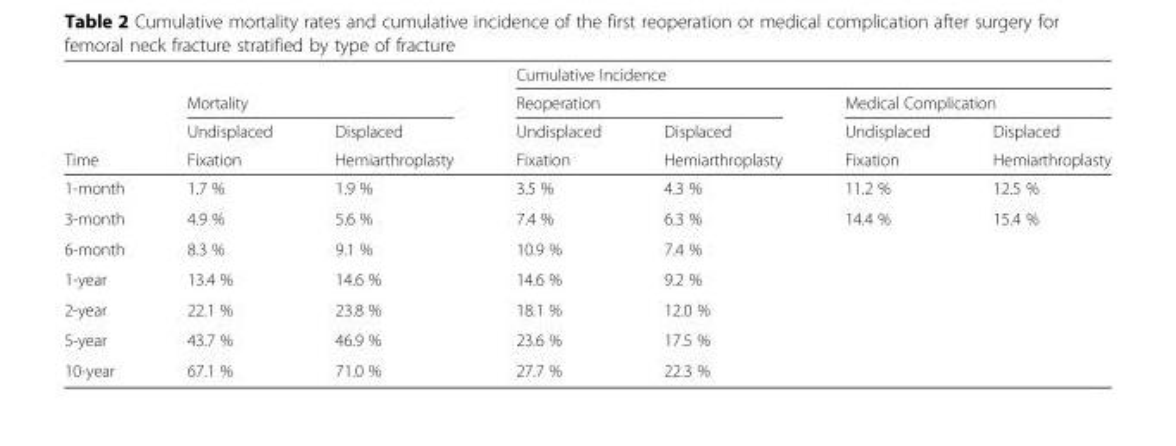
<table><thead><tr><td rowspan="4">Time</td><td></td><td></td><td colspan="4">Cumulative Incidence</td></tr><tr><td colspan="2">Mortality</td><td colspan="2">Reoperation</td><td colspan="2">Medical Complication</td></tr><tr><td rowspan="2">Undisplaced Fixation</td><td rowspan="2">Displaced Hemiarthroplasty</td><td rowspan="2">Undisplaced Fixation</td><td rowspan="2">Displaced Hemiarthroplasty</td><td rowspan="2">Undisplaced Fixation</td><td rowspan="2">Displaced Hemiarthroplasty</td></tr><tr></tr></thead><tbody><tr><td>1-month</td><td>1.7 %</td><td>1.9 %</td><td>3.5 %</td><td>4.3 %</td><td>11.2 %</td><td>12.5 %</td></tr><tr><td>3-month</td><td>4.9 %</td><td>5.6 %</td><td>7.4 %</td><td>6.3 %</td><td>14.4 %</td><td>15.4 %</td></tr><tr><td>6-month</td><td>8.3 %</td><td>9.1 %</td><td>10.9 %</td><td>7.4 %</td><td></td><td></td></tr><tr><td>1-year</td><td>13.4 %</td><td>14.6 %</td><td>14.6 %</td><td>9.2 %</td><td></td><td></td></tr><tr><td>2-year</td><td>22.1 %</td><td>23.8 %</td><td>18.1 %</td><td>12.0 %</td><td></td><td></td></tr><tr><td>5-year</td><td>43.7 %</td><td>46.9 %</td><td>23.6 %</td><td>17.5 %</td><td></td><td></td></tr><tr><td>10-year</td><td>67.1 %</td><td>71.0 %</td><td>27.7 %</td><td>22.3 %</td><td></td><td></td></tr></tbody></table>